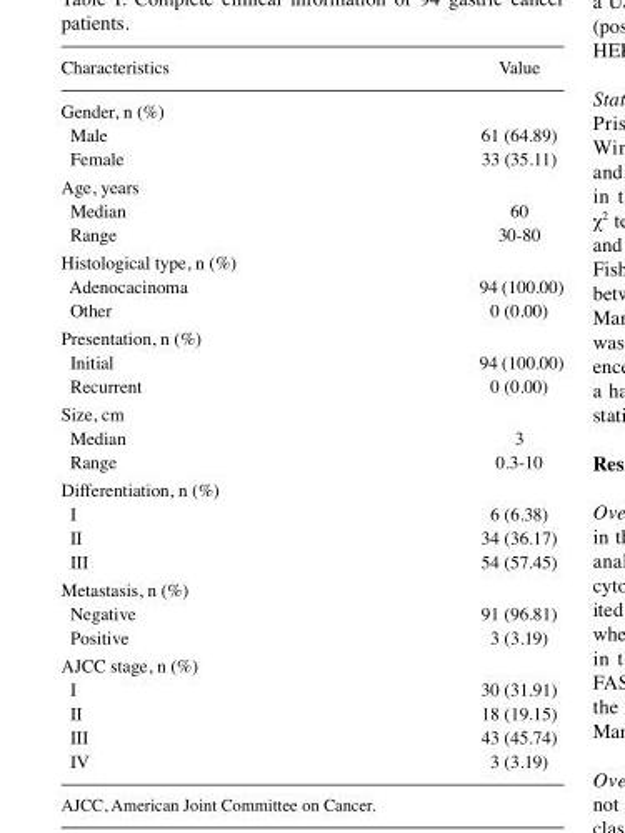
<table><thead><tr><td>Characteristics</td><td>Value</td></tr></thead><tbody><tr><td colspan="2">Gender, n (%)</td></tr><tr><td>Male</td><td>61 (64.89)</td></tr><tr><td>Female</td><td>33 (35.11)</td></tr><tr><td colspan="2">Age, years</td></tr><tr><td>Median</td><td>60</td></tr><tr><td>Range</td><td>30-80</td></tr><tr><td colspan="2">Histological type, n (%)</td></tr><tr><td>Adenocacinoma</td><td>94 (100.00)</td></tr><tr><td>Other</td><td>0 (0.00)</td></tr><tr><td colspan="2">Presentation, n (%)</td></tr><tr><td>Initial</td><td>94 (100.00)</td></tr><tr><td>Recurrent</td><td>0 (0.00)</td></tr><tr><td colspan="2">Size, cm</td></tr><tr><td>Median</td><td>3</td></tr><tr><td>Range</td><td>0.3-10</td></tr><tr><td colspan="2">Differentiation, n (%)</td></tr><tr><td>I</td><td>6 (6.38)</td></tr><tr><td>II</td><td>34 (36.17)</td></tr><tr><td>III</td><td>54 (57.45)</td></tr><tr><td colspan="2">Metastasis, n (%)</td></tr><tr><td>Negative</td><td>91 (96.81)</td></tr><tr><td>Positive</td><td>3 (3.19)</td></tr><tr><td colspan="2">AJCC stage, n (%)</td></tr><tr><td>I</td><td>30 (31.91)</td></tr><tr><td>II</td><td>18 (19.15)</td></tr><tr><td>III</td><td>43 (45.74)</td></tr><tr><td>IV</td><td>3 (3.19)</td></tr></tbody></table>